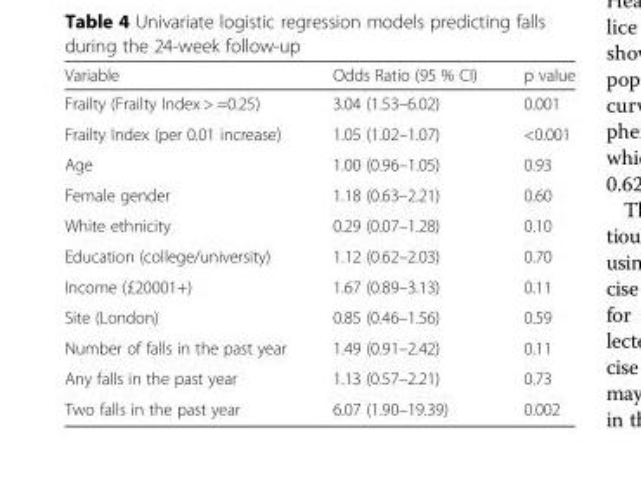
<table><thead><tr><td>Variable</td><td>Odds Ratio (95 % CI)</td><td>p value</td></tr></thead><tbody><tr><td>Frailty (Frailty Index &gt; =0.25)</td><td>3.04 (1.53–6.02)</td><td>0.001</td></tr><tr><td>Frailty Index (per 0.01 increase)</td><td>1.05 (1.02–1.07)</td><td>&lt;0.001</td></tr><tr><td>Age</td><td>1.00 (0.96–1.05)</td><td>0.93</td></tr><tr><td>Female gender</td><td>1.18 (0.63–2.21)</td><td>0.60</td></tr><tr><td>White ethnicity</td><td>0.29 (0.07–1.28)</td><td>0.10</td></tr><tr><td>Education (college/university)</td><td>1.12 (0.62–2.03)</td><td>0.70</td></tr><tr><td>Income (£20001+)</td><td>1.67 (0.89–3.13)</td><td>0.11</td></tr><tr><td>Site (London)</td><td>0.85 (0.46–1.56)</td><td>0.59</td></tr><tr><td>Number of falls in the past year</td><td>1.49 (0.91–2.42)</td><td>0.11</td></tr><tr><td>Any falls in the past year</td><td>1.13 (0.57–2.21)</td><td>0.73</td></tr><tr><td>Two falls in the past year</td><td>6.07 (1.90–19.39)</td><td>0.002</td></tr></tbody></table>